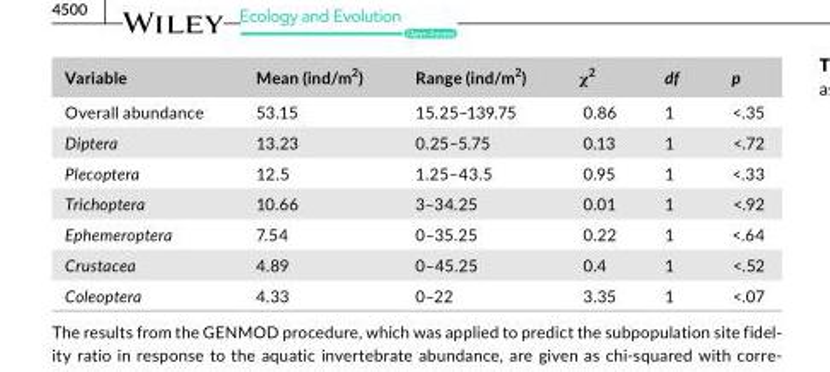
<table><thead><tr><td>Variable</td><td>Mean (ind/m<sup>2</sup>)</td><td>Range (ind/m<sup>2</sup>)</td><td>χ<sup>2</sup></td><td>df</td><td>p</td></tr></thead><tbody><tr><td>Overall abundance</td><td>53.15</td><td>15.25–139.75</td><td>0.86</td><td>1</td><td>&lt;.35</td></tr><tr><td>Diptera</td><td>13.23</td><td>0.25–5.75</td><td>0.13</td><td>1</td><td>&lt;.72</td></tr><tr><td>Plecoptera</td><td>12.5</td><td>1.25–43.5</td><td>0.95</td><td>1</td><td>&lt;.33</td></tr><tr><td>Trichoptera</td><td>10.66</td><td>3–34.25</td><td>0.01</td><td>1</td><td>&lt;.92</td></tr><tr><td>Ephemeroptera</td><td>7.54</td><td>0–35.25</td><td>0.22</td><td>1</td><td>&lt;.64</td></tr><tr><td>Crustacea</td><td>4.89</td><td>0–45.25</td><td>0.4</td><td>1</td><td>&lt;.52</td></tr><tr><td>Coleoptera</td><td>4.33</td><td>0–22</td><td>3.35</td><td>1</td><td>&lt;.07</td></tr></tbody></table>